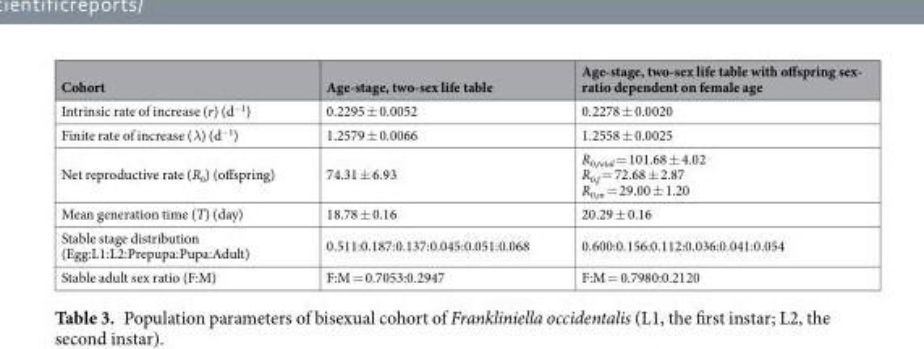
<table><thead><tr><td>Cohort</td><td>Age-stage, two-sex life table</td><td>Age-stage, two-sex life table with offspring sex- ratio dependent on female age</td></tr></thead><tbody><tr><td>Intrinsic rate of increase (r) (d<sup>−1</sup>)</td><td>0.2295 ± 0.0052</td><td>0.2278 ± 0.0020</td></tr><tr><td>Finite rate of increase (λ) (d<sup>−1</sup>)</td><td>1.2579 ± 0.0066</td><td>1.2558 ± 0.0025</td></tr><tr><td>Net reproductive rate (R<sub>0</sub>) (offspring)</td><td>74.31 ± 6.93</td><td>R<sub>0,total</sub> = 101.68 ± 4.02 R<sub>0,f</sub> = 72.68 ± 2.87 R<sub>0,m</sub> = 29.00 ± 1.20</td></tr><tr><td>Mean generation time (T) (day)</td><td>18.78 ± 0.16</td><td>20.29 ± 0.16</td></tr><tr><td>Stable stage distribution (Egg:L1:L2:Prepupa:Pupa:Adult)</td><td>0.511:0.187:0.137:0.045:0.051:0.068</td><td>0.600:0.156:0.112:0.036:0.041:0.054</td></tr><tr><td>Stable adult sex ratio (F:M)</td><td>F:M = 0.7053:0.2947</td><td>F:M = 0.7980:0.2120</td></tr></tbody></table>